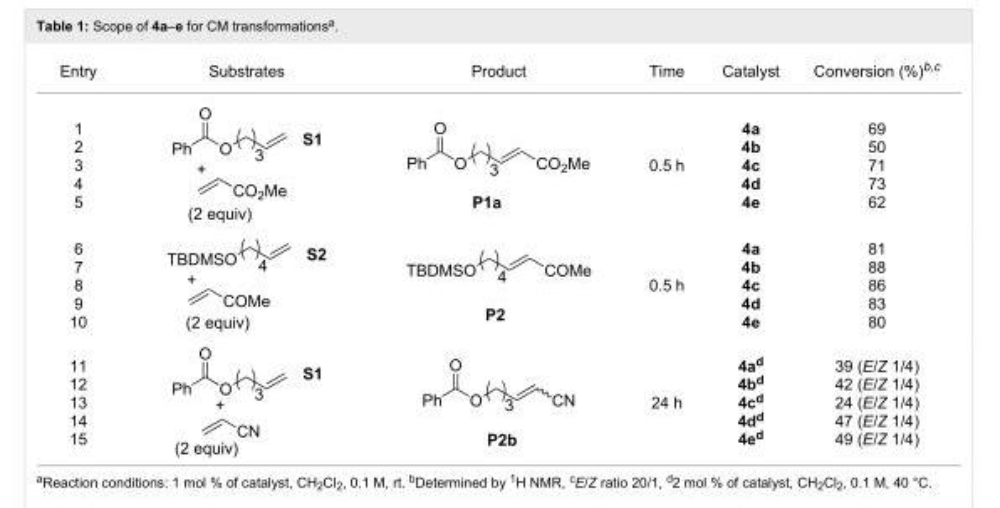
<table><tbody><tr><td>Entry</td><td>Substrates</td><td>Product</td><td>Time</td><td>Catalyst</td><td>Conversion (%)<sup>b,c</sup></td></tr><tr><td>1 2 3 4 5</td><td></td><td></td><td>0.5 h</td><td>4a 4b 4c 4d 4e</td><td>69 50 71 73 62</td></tr><tr><td>6 7 8 9 10</td><td></td><td></td><td>0.5 h</td><td>4a 4b 4c 4d 4e</td><td>81 88 86 83 80</td></tr><tr><td>11 12 13 14 15</td><td></td><td></td><td>24 h</td><td>4a<sup>d</sup> 4b<sup>d</sup> 4c<sup>d</sup> 4d<sup>d</sup> 4e<sup>d</sup></td><td>39 (E/Z 1/4) 42 (E/Z 1/4) 24 (E/Z 1/4) 47 (E/Z 1/4) 49 (E/Z 1/4)</td></tr></tbody></table>